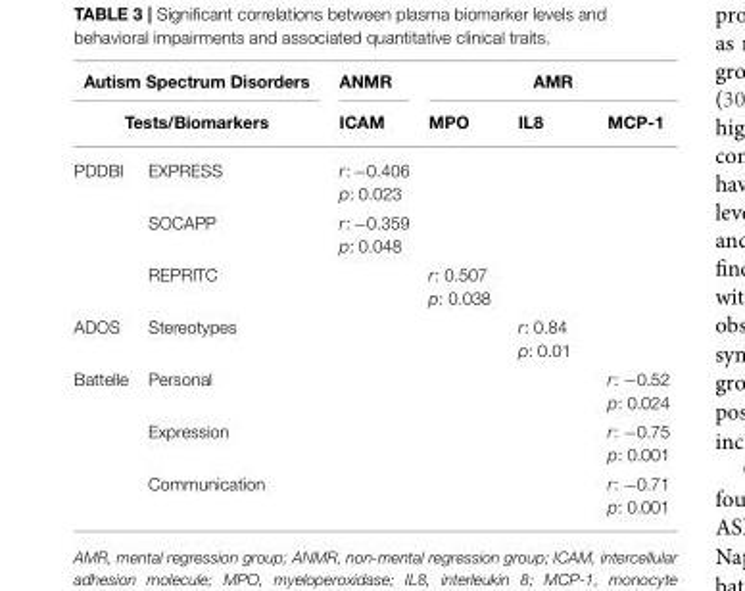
<table><thead><tr><td rowspan="2" colspan="2">Autism Spectrum Disorders Tests/Biomarkers</td><td rowspan="3">ANMR ICAM r: −0.406 p: 0.023</td><td colspan="3">AMR</td></tr><tr><td rowspan="2">MPO</td><td rowspan="2">IL8</td><td rowspan="2">MCP-1</td></tr><tr><td>PDDBI</td><td>EXPRESS</td></tr></thead><tbody><tr><td></td><td>SOCAPP</td><td>r: −0.359 p: 0.048</td><td></td><td></td><td></td></tr><tr><td></td><td>REPRITC</td><td></td><td>r: 0.507 p: 0.038</td><td></td><td></td></tr><tr><td>ADOS</td><td>Stereotypes</td><td></td><td></td><td>r: 0.84 p: 0.01</td><td></td></tr><tr><td rowspan="3">Battelle</td><td>Personal</td><td></td><td></td><td></td><td>r: −0.52 p: 0.024</td></tr><tr><td>Expression</td><td></td><td></td><td></td><td>r: −0.75 p: 0.001</td></tr><tr><td>Communication</td><td></td><td></td><td></td><td>r: −0.71 p: 0.001</td></tr></tbody></table>